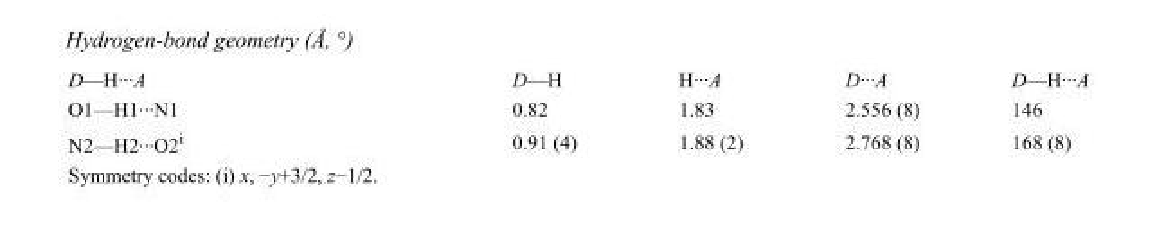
<table><tbody><tr><td>D—H···A</td><td>D—H</td><td>H···A</td><td>D···A</td><td>D—H···A</td></tr><tr><td>O1—H1···N1</td><td>0.82</td><td>1.83</td><td>2.556 (8)</td><td>146</td></tr><tr><td>N2—H2···O2<sup>i</sup></td><td>0.91 (4)</td><td>1.88 (2)</td><td>2.768 (8)</td><td>168 (8)</td></tr></tbody></table>